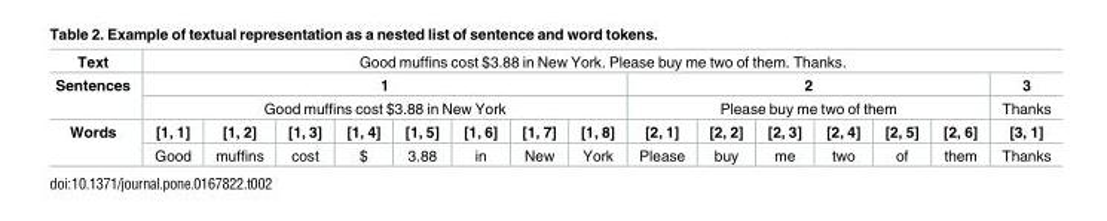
<table><tbody><tr><td>Text</td><td colspan="15">Good muffins cost $3.88 in New York. Please buy me two of them. Thanks.</td></tr><tr><td rowspan="2">Sentences</td><td colspan="8">1</td><td colspan="6">2</td><td>3</td></tr><tr><td colspan="8">Good muffins cost $3.88 in New York</td><td colspan="6">Please buy me two of them</td><td>Thanks</td></tr><tr><td rowspan="2">Words</td><td>[1, 1]</td><td>[1, 2]</td><td>[1, 3]</td><td>[1, 4]</td><td>[1, 5]</td><td>[1, 6]</td><td>[1, 7]</td><td>[1, 8]</td><td>[2, 1]</td><td>[2, 2]</td><td>[2, 3]</td><td>[2, 4]</td><td>[2, 5]</td><td>[2, 6]</td><td>[3, 1]</td></tr><tr><td>Good</td><td>muffins</td><td>cost</td><td>$</td><td>3.88</td><td>in</td><td>New</td><td>York</td><td>Please</td><td>buy</td><td>me</td><td>two</td><td>of</td><td>them</td><td>Thanks</td></tr></tbody></table>